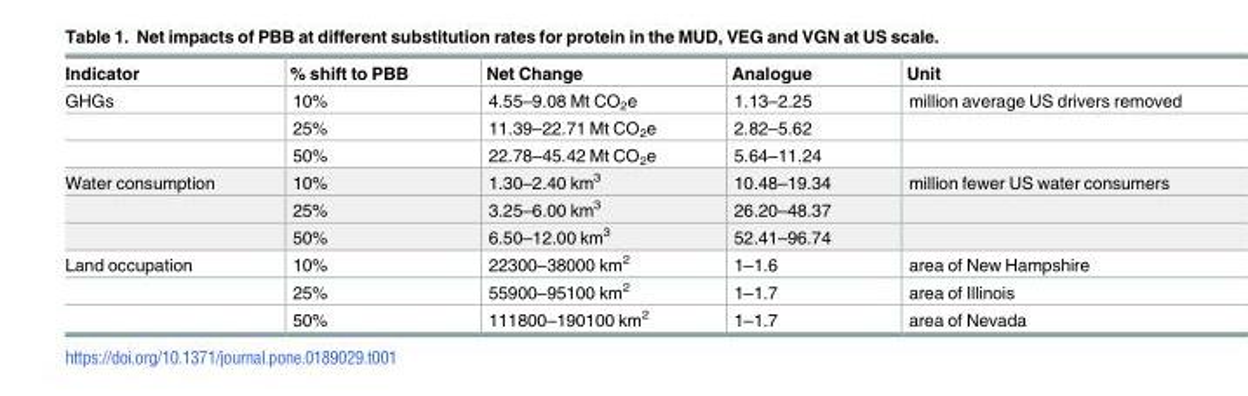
<table><thead><tr><td>Indicator</td><td>% shift to PBB</td><td>Net Change</td><td>Analogue</td><td>Unit</td></tr></thead><tbody><tr><td rowspan="3">GHGs</td><td>10%</td><td>4.55–9.08 Mt CO<sub>2</sub>e</td><td>1.13–2.25</td><td>million average US drivers removed</td></tr><tr><td>25%</td><td>11.39–22.71 Mt CO<sub>2</sub>e</td><td>2.82–5.62</td><td></td></tr><tr><td>50%</td><td>22.78–45.42 Mt CO<sub>2</sub>e</td><td>5.64–11.24</td><td></td></tr><tr><td rowspan="3">Water consumption</td><td>10%</td><td>1.30–2.40 km<sup>3</sup></td><td>10.48–19.34</td><td>million fewer US water consumers</td></tr><tr><td>25%</td><td>3.25–6.00 km<sup>3</sup></td><td>26.20–48.37</td><td></td></tr><tr><td>50%</td><td>6.50–12.00 km<sup>3</sup></td><td>52.41–96.74</td><td></td></tr><tr><td rowspan="3">Land occupation</td><td>10%</td><td>22300–38000 km<sup>2</sup></td><td>1–1.6</td><td>area of New Hampshire</td></tr><tr><td>25%</td><td>55900–95100 km<sup>2</sup></td><td>1–1.7</td><td>area of Illinois</td></tr><tr><td>50%</td><td>111800–190100 km<sup>2</sup></td><td>1–1.7</td><td>area of Nevada</td></tr></tbody></table>